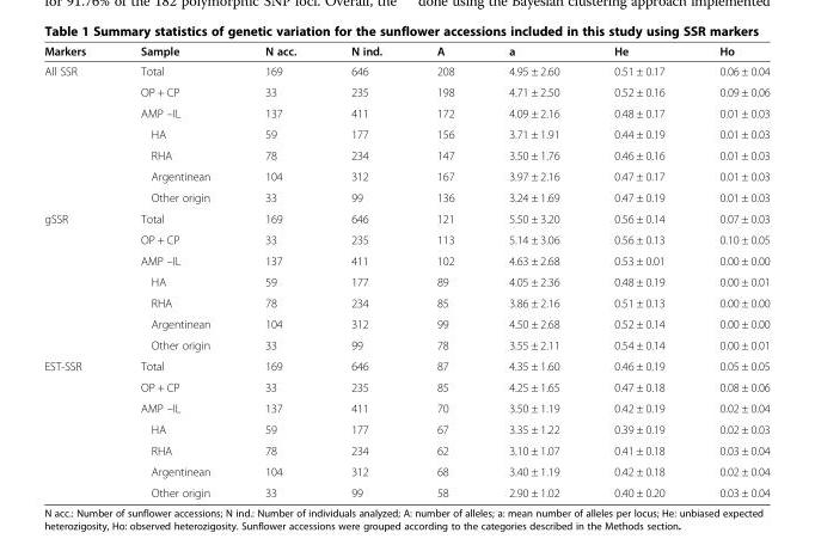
<table><thead><tr><td>Markers</td><td>Sample</td><td>N acc.</td><td>N ind.</td><td>A</td><td>a</td><td>He</td><td>Ho</td></tr></thead><tbody><tr><td rowspan="7">All SSR</td><td>Total</td><td>169</td><td>646</td><td>208</td><td>4.95 ± 2.60</td><td>0.51 ± 0.17</td><td>0.06 ± 0.04</td></tr><tr><td>OP + CP</td><td>33</td><td>235</td><td>198</td><td>4.71 ± 2.50</td><td>0.52 ± 0.16</td><td>0.09 ± 0.06</td></tr><tr><td>AMP –IL</td><td>137</td><td>411</td><td>172</td><td>4.09 ± 2.16</td><td>0.48 ± 0.17</td><td>0.01 ± 0.03</td></tr><tr><td>HA</td><td>59</td><td>177</td><td>156</td><td>3.71 ± 1.91</td><td>0.44 ± 0.19</td><td>0.01 ± 0.03</td></tr><tr><td>RHA</td><td>78</td><td>234</td><td>147</td><td>3.50 ± 1.76</td><td>0.46 ± 0.16</td><td>0.01 ± 0.03</td></tr><tr><td>Argentinean</td><td>104</td><td>312</td><td>167</td><td>3.97 ± 2.16</td><td>0.47 ± 0.17</td><td>0.01 ± 0.03</td></tr><tr><td>Other origin</td><td>33</td><td>99</td><td>136</td><td>3.24 ± 1.69</td><td>0.47 ± 0.19</td><td>0.01 ± 0.03</td></tr><tr><td rowspan="7">gSSR</td><td>Total</td><td>169</td><td>646</td><td>121</td><td>5.50 ± 3.20</td><td>0.56 ± 0.14</td><td>0.07 ± 0.03</td></tr><tr><td>OP + CP</td><td>33</td><td>235</td><td>113</td><td>5.14 ± 3.06</td><td>0.56 ± 0.13</td><td>0.10 ± 0.05</td></tr><tr><td>AMP –IL</td><td>137</td><td>411</td><td>102</td><td>4.63 ± 2.68</td><td>0.53 ± 0.01</td><td>0.00 ± 0.00</td></tr><tr><td>HA</td><td>59</td><td>177</td><td>89</td><td>4.05 ± 2.36</td><td>0.48 ± 0.19</td><td>0.00 ± 0.01</td></tr><tr><td>RHA</td><td>78</td><td>234</td><td>85</td><td>3.86 ± 2.16</td><td>0.51 ± 0.13</td><td>0.00 ± 0.00</td></tr><tr><td>Argentinean</td><td>104</td><td>312</td><td>99</td><td>4.50 ± 2.68</td><td>0.52 ± 0.14</td><td>0.00 ± 0.00</td></tr><tr><td>Other origin</td><td>33</td><td>99</td><td>78</td><td>3.55 ± 2.11</td><td>0.54 ± 0.14</td><td>0.00 ± 0.01</td></tr><tr><td rowspan="7">EST-SSR</td><td>Total</td><td>169</td><td>646</td><td>87</td><td>4.35 ± 1.60</td><td>0.46 ± 0.19</td><td>0.05 ± 0.05</td></tr><tr><td>OP + CP</td><td>33</td><td>235</td><td>85</td><td>4.25 ± 1.65</td><td>0.47 ± 0.18</td><td>0.08 ± 0.06</td></tr><tr><td>AMP –IL</td><td>137</td><td>411</td><td>70</td><td>3.50 ± 1.19</td><td>0.42 ± 0.19</td><td>0.02 ± 0.04</td></tr><tr><td>HA</td><td>59</td><td>177</td><td>67</td><td>3.35 ± 1.22</td><td>0.39 ± 0.19</td><td>0.02 ± 0.03</td></tr><tr><td>RHA</td><td>78</td><td>234</td><td>62</td><td>3.10 ± 1.07</td><td>0.41 ± 0.18</td><td>0.03 ± 0.04</td></tr><tr><td>Argentinean</td><td>104</td><td>312</td><td>68</td><td>3.40 ± 1.19</td><td>0.42 ± 0.18</td><td>0.02 ± 0.04</td></tr><tr><td>Other origin</td><td>33</td><td>99</td><td>58</td><td>2.90 ± 1.02</td><td>0.40 ± 0.20</td><td>0.03 ± 0.04</td></tr></tbody></table>